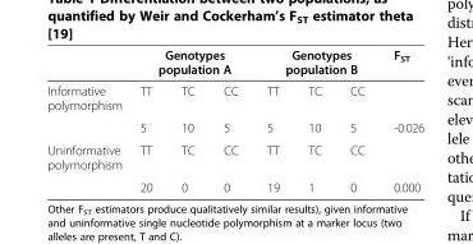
<table><thead><tr><td rowspan="2">Informative polymorphism</td><td colspan="3">Genotypes population A</td><td colspan="3">Genotypes population B</td><td rowspan="2">F<sub>ST</sub></td></tr><tr><td>TT</td><td>TC</td><td>CC</td><td>TT</td><td>TC</td><td>CC</td></tr></thead><tbody><tr><td></td><td>5</td><td>10</td><td>5</td><td>5</td><td>10</td><td>5</td><td>-0.026</td></tr><tr><td rowspan="2">Uninformative polymorphism</td><td>TT</td><td>TC</td><td>CC</td><td>TT</td><td>TC</td><td>CC</td><td></td></tr><tr><td>20</td><td>0</td><td>0</td><td>19</td><td>1</td><td>0</td><td>0.000</td></tr></tbody></table>